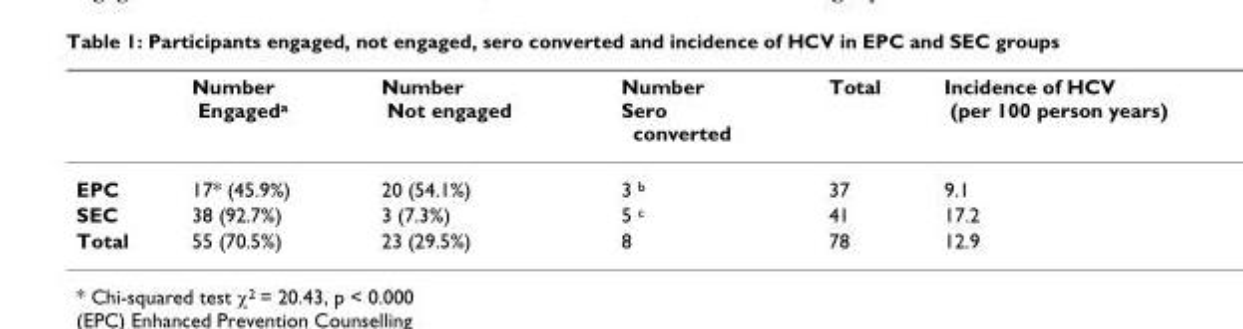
<table><thead><tr><td></td><td>Number Engaged<sup>a</sup></td><td>Number Not engaged</td><td>Number Sero converted</td><td>Total</td><td>Incidence of HCV (per 100 person years)</td></tr></thead><tbody><tr><td>EPC</td><td>17* (45.9%)</td><td>20 (54.1%)</td><td>3 <sup>b</sup></td><td>37</td><td>9.1</td></tr><tr><td>SEC</td><td>38 (92.7%)</td><td>3 (7.3%)</td><td>5 <sup>c</sup></td><td>41</td><td>17.2</td></tr><tr><td>Total</td><td>55 (70.5%)</td><td>23 (29.5%)</td><td>8</td><td>78</td><td>12.9</td></tr></tbody></table>